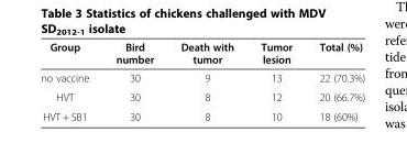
<table><thead><tr><td>Group</td><td>Bird number</td><td>Death with tumor</td><td>Tumor lesion</td><td>Total (%)</td></tr></thead><tbody><tr><td>no vaccine</td><td>30</td><td>9</td><td>13</td><td>22 (70.3%)</td></tr><tr><td>HVT</td><td>30</td><td>8</td><td>12</td><td>20 (66.7%)</td></tr><tr><td>HVT + SB1</td><td>30</td><td>8</td><td>10</td><td>18 (60%)</td></tr></tbody></table>